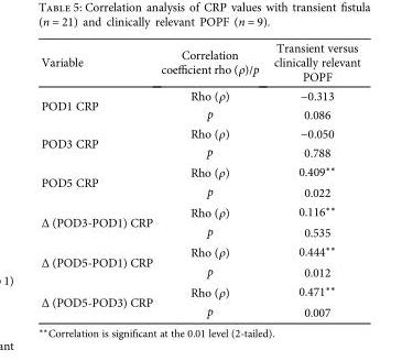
<table><thead><tr><td>Variable</td><td>Correlation coefficient rho (ρ)/p</td><td>Transient versus clinically relevant POPF</td></tr></thead><tbody><tr><td rowspan="2">POD1 CRP</td><td>Rho (ρ)</td><td>−0.313</td></tr><tr><td>p</td><td>0.086</td></tr><tr><td rowspan="2">POD3 CRP</td><td>Rho (ρ)</td><td>−0.050</td></tr><tr><td>p</td><td>0.788</td></tr><tr><td rowspan="2">POD5 CRP</td><td>Rho (ρ)</td><td>0.409∗∗</td></tr><tr><td>p</td><td>0.022</td></tr><tr><td rowspan="2">Δ (POD3-POD1) CRP</td><td>Rho (ρ)</td><td>0.116∗∗</td></tr><tr><td>p</td><td>0.535</td></tr><tr><td rowspan="2">Δ (POD5-POD1) CRP</td><td>Rho (ρ)</td><td>0.444∗∗</td></tr><tr><td>p</td><td>0.012</td></tr><tr><td rowspan="2">Δ (POD5-POD3) CRP</td><td>Rho (ρ)</td><td>0.471∗∗</td></tr><tr><td>p</td><td>0.007</td></tr></tbody></table>